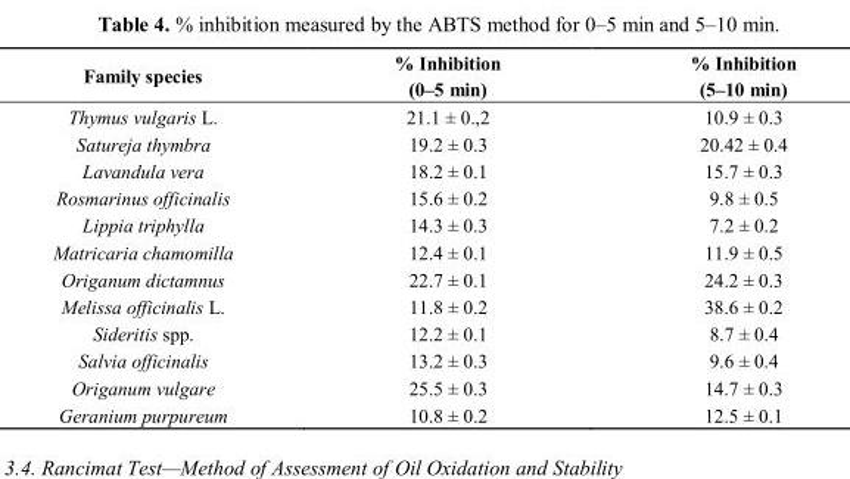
<table><thead><tr><td>Family species</td><td>% Inhibition (0–5 min)</td><td>% Inhibition (5–10 min)</td></tr></thead><tbody><tr><td>Thymus vulgaris L.</td><td>21.1 ± 0.,2</td><td>10.9 ± 0.3</td></tr><tr><td>Satureja thymbra</td><td>19.2 ± 0.3</td><td>20.42 ± 0.4</td></tr><tr><td>Lavandula vera</td><td>18.2 ± 0.1</td><td>15.7 ± 0.3</td></tr><tr><td>Rosmarinus officinalis</td><td>15.6 ± 0.2</td><td>9.8 ± 0.5</td></tr><tr><td>Lippia triphylla</td><td>14.3 ± 0.3</td><td>7.2 ± 0.2</td></tr><tr><td>Matricaria chamomilla</td><td>12.4 ± 0.1</td><td>11.9 ± 0.5</td></tr><tr><td>Origanum dictamnus</td><td>22.7 ± 0.1</td><td>24.2 ± 0.3</td></tr><tr><td>Melissa officinalis L.</td><td>11.8 ± 0.2</td><td>38.6 ± 0.2</td></tr><tr><td>Sideritis spp.</td><td>12.2 ± 0.1</td><td>8.7 ± 0.4</td></tr><tr><td>Salvia officinalis</td><td>13.2 ± 0.3</td><td>9.6 ± 0.4</td></tr><tr><td>Origanum vulgare</td><td>25.5 ± 0.3</td><td>14.7 ± 0.3</td></tr><tr><td>Geranium purpureum</td><td>10.8 ± 0.2</td><td>12.5 ± 0.1</td></tr></tbody></table>